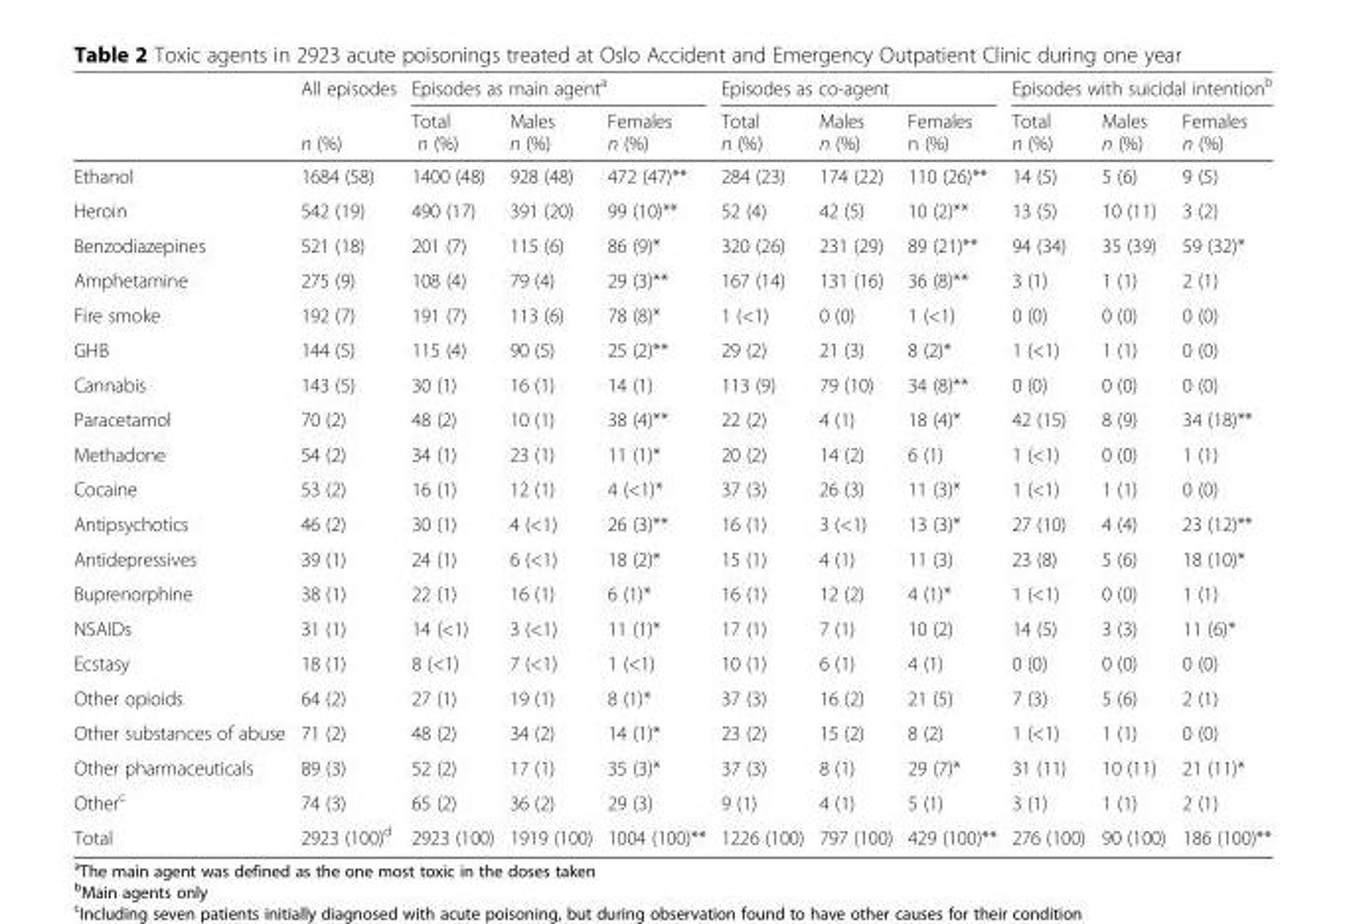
<table><thead><tr><td rowspan="2"></td><td rowspan="2">All episodes n (%)</td><td colspan="3">Episodes as main agent<sup>a</sup></td><td colspan="3">Episodes as co-agent</td><td colspan="3">Episodes with suicidal intention<sup>b</sup></td></tr><tr><td>Total n (%)</td><td>Males n (%)</td><td>Females n (%)</td><td>Total n (%)</td><td>Males n (%)</td><td>Females n (%)</td><td>Total n (%)</td><td>Males n (%)</td><td>Females n (%)</td></tr></thead><tbody><tr><td>Ethanol</td><td>1684 (58)</td><td>1400 (48)</td><td>928 (48)</td><td>472 (47)**</td><td>284 (23)</td><td>174 (22)</td><td>110 (26)**</td><td>14 (5)</td><td>5 (6)</td><td>9 (5)</td></tr><tr><td>Heroin</td><td>542 (19)</td><td>490 (17)</td><td>391 (20)</td><td>99 (10)**</td><td>52 (4)</td><td>42 (5)</td><td>10 (2)**</td><td>13 (5)</td><td>10 (11)</td><td>3 (2)</td></tr><tr><td>Benzodiazepines</td><td>521 (18)</td><td>201 (7)</td><td>115 (6)</td><td>86 (9)*</td><td>320 (26)</td><td>231 (29)</td><td>89 (21)**</td><td>94 (34)</td><td>35 (39)</td><td>59 (32)*</td></tr><tr><td>Amphetamine</td><td>275 (9)</td><td>108 (4)</td><td>79 (4)</td><td>29 (3)**</td><td>167 (14)</td><td>131 (16)</td><td>36 (8)**</td><td>3 (1)</td><td>1 (1)</td><td>2 (1)</td></tr><tr><td>Fire smoke</td><td>192 (7)</td><td>191 (7)</td><td>113 (6)</td><td>78 (8)*</td><td>1 (&lt;1)</td><td>0 (0)</td><td>1 (&lt;1)</td><td>0 (0)</td><td>0 (0)</td><td>0 (0)</td></tr><tr><td>GHB</td><td>144 (5)</td><td>115 (4)</td><td>90 (5)</td><td>25 (2)**</td><td>29 (2)</td><td>21 (3)</td><td>8 (2)*</td><td>1 (&lt;1)</td><td>1 (1)</td><td>0 (0)</td></tr><tr><td>Cannabis</td><td>143 (5)</td><td>30 (1)</td><td>16 (1)</td><td>14 (1)</td><td>113 (9)</td><td>79 (10)</td><td>34 (8)**</td><td>0 (0)</td><td>0 (0)</td><td>0 (0)</td></tr><tr><td>Paracetamol</td><td>70 (2)</td><td>48 (2)</td><td>10 (1)</td><td>38 (4)**</td><td>22 (2)</td><td>4 (1)</td><td>18 (4)*</td><td>42 (15)</td><td>8 (9)</td><td>34 (18)**</td></tr><tr><td>Methadone</td><td>54 (2)</td><td>34 (1)</td><td>23 (1)</td><td>11 (1)*</td><td>20 (2)</td><td>14 (2)</td><td>6 (1)</td><td>1 (&lt;1)</td><td>0 (0)</td><td>1 (1)</td></tr><tr><td>Cocaine</td><td>53 (2)</td><td>16 (1)</td><td>12 (1)</td><td>4 (&lt;1)*</td><td>37 (3)</td><td>26 (3)</td><td>11 (3)*</td><td>1 (&lt;1)</td><td>1 (1)</td><td>0 (0)</td></tr><tr><td>Antipsychotics</td><td>46 (2)</td><td>30 (1)</td><td>4 (&lt;1)</td><td>26 (3)**</td><td>16 (1)</td><td>3 (&lt;1)</td><td>13 (3)*</td><td>27 (10)</td><td>4 (4)</td><td>23 (12)**</td></tr><tr><td>Antidepressives</td><td>39 (1)</td><td>24 (1)</td><td>6 (&lt;1)</td><td>18 (2)*</td><td>15 (1)</td><td>4 (1)</td><td>11 (3)</td><td>23 (8)</td><td>5 (6)</td><td>18 (10)*</td></tr><tr><td>Buprenorphine</td><td>38 (1)</td><td>22 (1)</td><td>16 (1)</td><td>6 (1)*</td><td>16 (1)</td><td>12 (2)</td><td>4 (1)*</td><td>1 (&lt;1)</td><td>0 (0)</td><td>1 (1)</td></tr><tr><td>NSAIDs</td><td>31 (1)</td><td>14 (&lt;1)</td><td>3 (&lt;1)</td><td>11 (1)*</td><td>17 (1)</td><td>7 (1)</td><td>10 (2)</td><td>14 (5)</td><td>3 (3)</td><td>11 (6)*</td></tr><tr><td>Ecstasy</td><td>18 (1)</td><td>8 (&lt;1)</td><td>7 (&lt;1)</td><td>1 (&lt;1)</td><td>10 (1)</td><td>6 (1)</td><td>4 (1)</td><td>0 (0)</td><td>0 (0)</td><td>0 (0)</td></tr><tr><td>Other opioids</td><td>64 (2)</td><td>27 (1)</td><td>19 (1)</td><td>8 (1)*</td><td>37 (3)</td><td>16 (2)</td><td>21 (5)</td><td>7 (3)</td><td>5 (6)</td><td>2 (1)</td></tr><tr><td>Other substances of abuse</td><td>71 (2)</td><td>48 (2)</td><td>34 (2)</td><td>14 (1)*</td><td>23 (2)</td><td>15 (2)</td><td>8 (2)</td><td>1 (&lt;1)</td><td>1 (1)</td><td>0 (0)</td></tr><tr><td>Other pharmaceuticals</td><td>89 (3)</td><td>52 (2)</td><td>17 (1)</td><td>35 (3)*</td><td>37 (3)</td><td>8 (1)</td><td>29 (7)*</td><td>31 (11)</td><td>10 (11)</td><td>21 (11)*</td></tr><tr><td>Other<sup>c</sup></td><td>74 (3)</td><td>65 (2)</td><td>36 (2)</td><td>29 (3)</td><td>9 (1)</td><td>4 (1)</td><td>5 (1)</td><td>3 (1)</td><td>1 (1)</td><td>2 (1)</td></tr><tr><td>Total</td><td>2923 (100)<sup>d</sup></td><td>2923 (100)</td><td>1919 (100)</td><td>1004 (100)**</td><td>1226 (100)</td><td>797 (100)</td><td>429 (100)**</td><td>276 (100)</td><td>90 (100)</td><td>186 (100)**</td></tr></tbody></table>